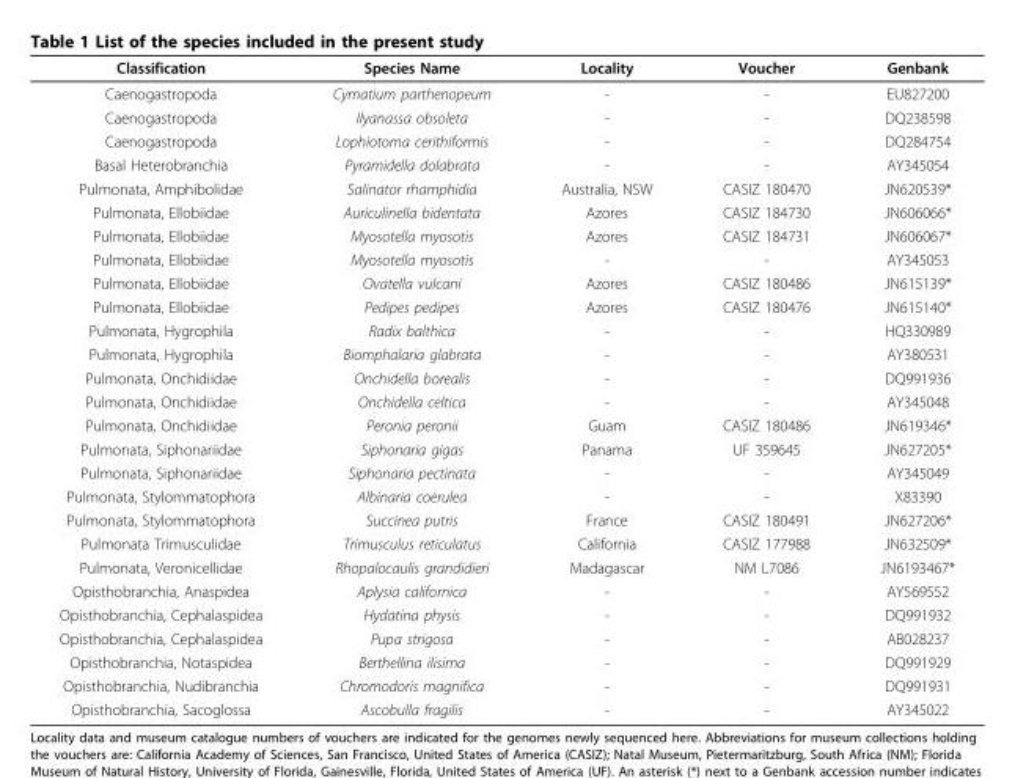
<table><thead><tr><td>Classification</td><td>Species Name</td><td>Locality</td><td>Voucher</td><td>Genbank</td></tr></thead><tbody><tr><td>Caenogastropoda</td><td>Cymatium parthenopeum</td><td>-</td><td>-</td><td>EU827200</td></tr><tr><td>Caenogastropoda</td><td>Ilyanassa obsoleta</td><td>-</td><td>-</td><td>DQ238598</td></tr><tr><td>Caenogastropoda</td><td>Lophiotoma cerithiformis</td><td>-</td><td>-</td><td>DQ284754</td></tr><tr><td>Basal Heterobranchia</td><td>Pyramidella dolabrata</td><td>-</td><td>-</td><td>AY345054</td></tr><tr><td>Pulmonata, Amphibolidae</td><td>Salinator rhamphidia</td><td>Australia, NSW</td><td>CASIZ 180470</td><td>JN620539*</td></tr><tr><td>Pulmonata, Ellobiidae</td><td>Auriculinella bidentata</td><td>Azores</td><td>CASIZ 184730</td><td>JN606066*</td></tr><tr><td>Pulmonata, Ellobiidae</td><td>Myosotella myosotis</td><td>Azores</td><td>CASIZ 184731</td><td>JN606067*</td></tr><tr><td>Pulmonata, Ellobiidae</td><td>Myosotella myosotis</td><td>-</td><td>-</td><td>AY345053</td></tr><tr><td>Pulmonata, Ellobiidae</td><td>Ovatella vulcani</td><td>Azores</td><td>CASIZ 180486</td><td>JN615139*</td></tr><tr><td>Pulmonata, Ellobiidae</td><td>Pedipes pedipes</td><td>Azores</td><td>CASIZ 180476</td><td>JN615140*</td></tr><tr><td>Pulmonata, Hygrophila</td><td>Radix balthica</td><td>-</td><td>-</td><td>HQ330989</td></tr><tr><td>Pulmonata, Hygrophila</td><td>Biomphalaria glabrata</td><td>-</td><td>-</td><td>AY380531</td></tr><tr><td>Pulmonata, Onchidiidae</td><td>Onchidella borealis</td><td>-</td><td>-</td><td>DQ991936</td></tr><tr><td>Pulmonata, Onchidiidae</td><td>Onchidella celtica</td><td>-</td><td>-</td><td>AY345048</td></tr><tr><td>Pulmonata, Onchidiidae</td><td>Peronia peronii</td><td>Guam</td><td>CASIZ 180486</td><td>JN619346*</td></tr><tr><td>Pulmonata, Siphonariidae</td><td>Siphonaria gigas</td><td>Panama</td><td>UF 359645</td><td>JN627205*</td></tr><tr><td>Pulmonata, Siphonariidae</td><td>Siphonaria pectinata</td><td>-</td><td>-</td><td>AY345049</td></tr><tr><td>Pulmonata, Stylommatophora</td><td>Albinaria coerulea</td><td>-</td><td>-</td><td>X83390</td></tr><tr><td>Pulmonata, Stylommatophora</td><td>Succinea putris</td><td>France</td><td>CASIZ 180491</td><td>JN627206*</td></tr><tr><td>Pulmonata Trimusculidae</td><td>Trimusculus reticulatus</td><td>California</td><td>CASIZ 177988</td><td>JN632509*</td></tr><tr><td>Pulmonata, Veronicellidae</td><td>Rhopalocaulis grandidieri</td><td>Madagascar</td><td>NM L7086</td><td>JN6193467*</td></tr><tr><td>Opisthobranchia, Anaspidea</td><td>Aplysia californica</td><td>-</td><td>-</td><td>AY569552</td></tr><tr><td>Opisthobranchia, Cephalaspidea</td><td>Hydatina physis</td><td>-</td><td>-</td><td>DQ991932</td></tr><tr><td>Opisthobranchia, Cephalaspidea</td><td>Pupa strigosa</td><td>-</td><td>-</td><td>AB028237</td></tr><tr><td>Opisthobranchia, Notaspidea</td><td>Berthellina ilisima</td><td>-</td><td>-</td><td>DQ991929</td></tr><tr><td>Opisthobranchia, Nudibranchia</td><td>Chromodoris magnifica</td><td>-</td><td>-</td><td>DQ991931</td></tr><tr><td>Opisthobranchia, Sacoglossa</td><td>Ascobulla fragilis</td><td>-</td><td>-</td><td>AY345022</td></tr></tbody></table>